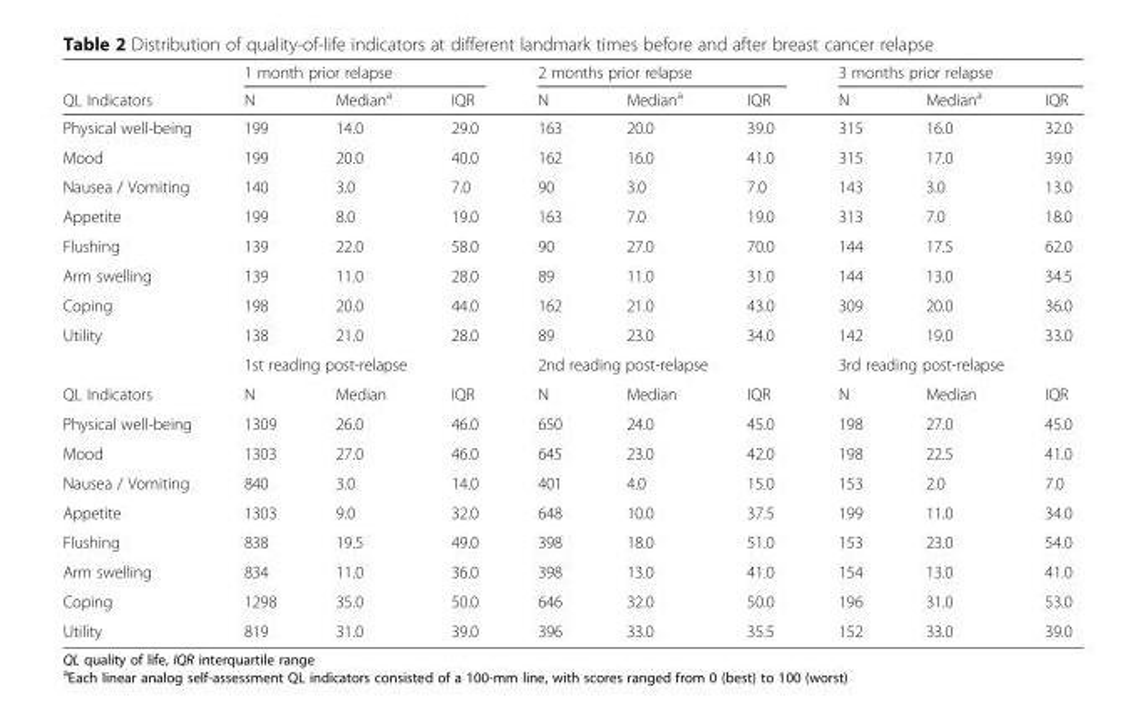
<table><thead><tr><td rowspan="2">QL Indicators</td><td colspan="3">1 month prior relapse</td><td colspan="3">2 months prior relapse</td><td colspan="3">3 months prior relapse</td></tr><tr><td>N</td><td>Median<sup>a</sup></td><td>IQR</td><td>N</td><td>Median<sup>a</sup></td><td>IQR</td><td>N</td><td>Median<sup>a</sup></td><td>IQR</td></tr></thead><tbody><tr><td>Physical well-being</td><td>199</td><td>14.0</td><td>29.0</td><td>163</td><td>20.0</td><td>39.0</td><td>315</td><td>16.0</td><td>32.0</td></tr><tr><td>Mood</td><td>199</td><td>20.0</td><td>40.0</td><td>162</td><td>16.0</td><td>41.0</td><td>315</td><td>17.0</td><td>39.0</td></tr><tr><td>Nausea / Vomiting</td><td>140</td><td>3.0</td><td>7.0</td><td>90</td><td>3.0</td><td>7.0</td><td>143</td><td>3.0</td><td>13.0</td></tr><tr><td>Appetite</td><td>199</td><td>8.0</td><td>19.0</td><td>163</td><td>7.0</td><td>19.0</td><td>313</td><td>7.0</td><td>18.0</td></tr><tr><td>Flushing</td><td>139</td><td>22.0</td><td>58.0</td><td>90</td><td>27.0</td><td>70.0</td><td>144</td><td>17.5</td><td>62.0</td></tr><tr><td>Arm swelling</td><td>139</td><td>11.0</td><td>28.0</td><td>89</td><td>11.0</td><td>31.0</td><td>144</td><td>13.0</td><td>34.5</td></tr><tr><td>Coping</td><td>198</td><td>20.0</td><td>44.0</td><td>162</td><td>21.0</td><td>43.0</td><td>309</td><td>20.0</td><td>36.0</td></tr><tr><td rowspan="2">Utility</td><td>138</td><td>21.0</td><td>28.0</td><td>89</td><td>23.0</td><td>34.0</td><td>142</td><td>19.0</td><td>33.0</td></tr><tr><td colspan="3">1st reading post-relapse</td><td colspan="3">2nd reading post-relapse</td><td colspan="3">3rd reading post-relapse</td></tr><tr><td>QL Indicators</td><td>N</td><td>Median</td><td>IQR</td><td>N</td><td>Median</td><td>IQR</td><td>N</td><td>Median</td><td>IQR</td></tr><tr><td>Physical well-being</td><td>1309</td><td>26.0</td><td>46.0</td><td>650</td><td>24.0</td><td>45.0</td><td>198</td><td>27.0</td><td>45.0</td></tr><tr><td>Mood</td><td>1303</td><td>27.0</td><td>46.0</td><td>645</td><td>23.0</td><td>42.0</td><td>198</td><td>22.5</td><td>41.0</td></tr><tr><td>Nausea / Vomiting</td><td>840</td><td>3.0</td><td>14.0</td><td>401</td><td>4.0</td><td>15.0</td><td>153</td><td>2.0</td><td>7.0</td></tr><tr><td>Appetite</td><td>1303</td><td>9.0</td><td>32.0</td><td>648</td><td>10.0</td><td>37.5</td><td>199</td><td>11.0</td><td>34.0</td></tr><tr><td>Flushing</td><td>838</td><td>19.5</td><td>49.0</td><td>398</td><td>18.0</td><td>51.0</td><td>153</td><td>23.0</td><td>54.0</td></tr><tr><td>Arm swelling</td><td>834</td><td>11.0</td><td>36.0</td><td>398</td><td>13.0</td><td>41.0</td><td>154</td><td>13.0</td><td>41.0</td></tr><tr><td>Coping</td><td>1298</td><td>35.0</td><td>50.0</td><td>646</td><td>32.0</td><td>50.0</td><td>196</td><td>31.0</td><td>53.0</td></tr><tr><td>Utility</td><td>819</td><td>31.0</td><td>39.0</td><td>396</td><td>33.0</td><td>35.5</td><td>152</td><td>33.0</td><td>39.0</td></tr></tbody></table>